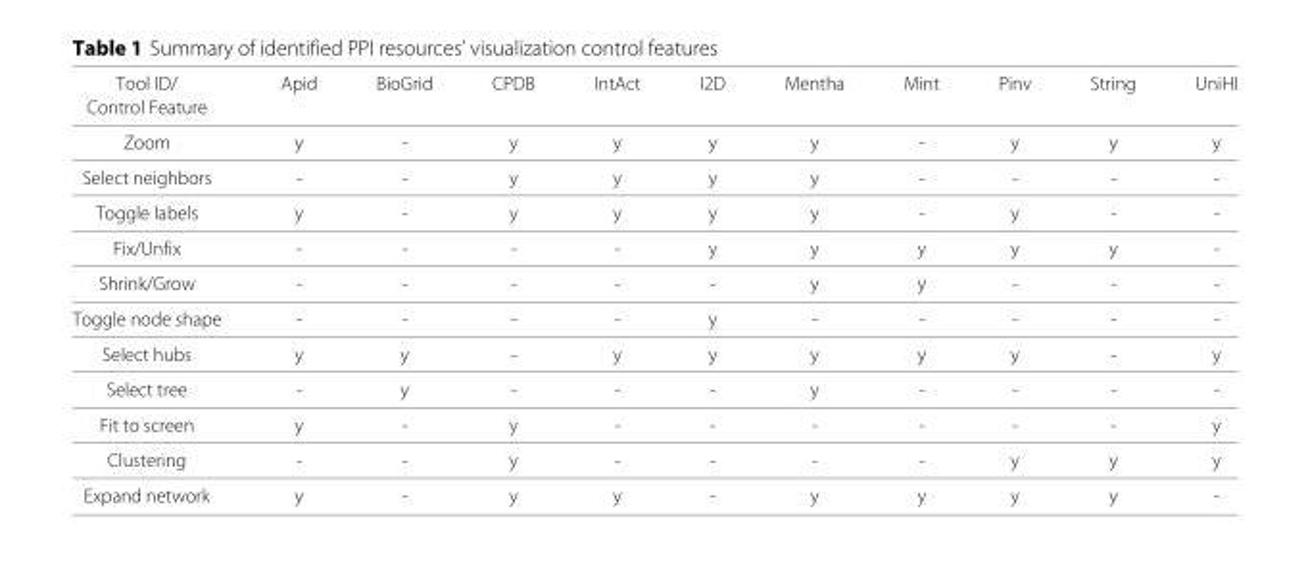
<table><thead><tr><td rowspan="2">Tool ID/ Control Feature</td><td rowspan="2">Apid</td><td rowspan="2">BioGrid</td><td rowspan="2">CPDB</td><td rowspan="2">IntAct</td><td rowspan="2">I2D</td><td rowspan="2">Mentha</td><td rowspan="2">Mint</td><td rowspan="2">Pinv</td><td rowspan="2">String</td><td rowspan="2">UniHI</td></tr><tr></tr></thead><tbody><tr><td>Zoom</td><td>y</td><td>-</td><td>y</td><td>y</td><td>y</td><td>y</td><td>-</td><td>y</td><td>y</td><td>y</td></tr><tr><td>Select neighbors</td><td>-</td><td>-</td><td>y</td><td>y</td><td>y</td><td>y</td><td>-</td><td>-</td><td>-</td><td>-</td></tr><tr><td>Toggle labels</td><td>y</td><td>-</td><td>y</td><td>y</td><td>y</td><td>y</td><td>-</td><td>y</td><td>-</td><td>-</td></tr><tr><td>Fix/Unfix</td><td>-</td><td>-</td><td>-</td><td>-</td><td>y</td><td>y</td><td>y</td><td>y</td><td>y</td><td>-</td></tr><tr><td>Shrink/Grow</td><td>-</td><td>-</td><td>-</td><td>-</td><td>-</td><td>y</td><td>y</td><td>-</td><td>-</td><td>-</td></tr><tr><td>Toggle node shape</td><td>-</td><td>-</td><td>-</td><td>-</td><td>y</td><td>-</td><td>-</td><td>-</td><td>-</td><td>-</td></tr><tr><td>Select hubs</td><td>y</td><td>y</td><td>-</td><td>y</td><td>y</td><td>y</td><td>y</td><td>y</td><td>-</td><td>y</td></tr><tr><td>Select tree</td><td>-</td><td>y</td><td>-</td><td>-</td><td>-</td><td>y</td><td>-</td><td>-</td><td>-</td><td>-</td></tr><tr><td>Fit to screen</td><td>y</td><td>-</td><td>y</td><td>-</td><td>-</td><td>-</td><td>-</td><td>-</td><td>-</td><td>y</td></tr><tr><td>Clustering</td><td>-</td><td>-</td><td>y</td><td>-</td><td>-</td><td>-</td><td>-</td><td>y</td><td>y</td><td>y</td></tr><tr><td>Expand network</td><td>y</td><td>-</td><td>y</td><td>y</td><td>-</td><td>y</td><td>y</td><td>y</td><td>y</td><td>-</td></tr></tbody></table>